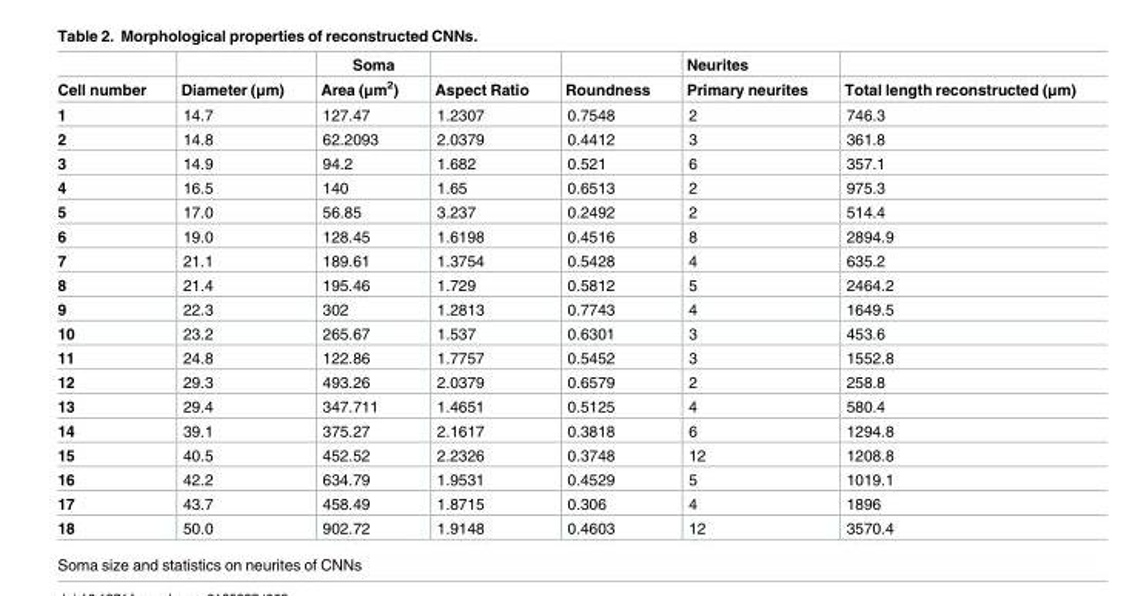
<table><thead><tr><td rowspan="2">Cell number</td><td rowspan="2">Diameter (μm)</td><td rowspan="2">Soma Area (μm<sup>2</sup>)</td><td rowspan="2">Aspect Ratio</td><td rowspan="2">Roundness</td><td rowspan="2">Neurites Primary neurites</td><td rowspan="2">Total length reconstructed (μm)</td></tr><tr></tr></thead><tbody><tr><td>1</td><td>14.7</td><td>127.47</td><td>1.2307</td><td>0.7548</td><td>2</td><td>746.3</td></tr><tr><td>2</td><td>14.8</td><td>62.2093</td><td>2.0379</td><td>0.4412</td><td>3</td><td>361.8</td></tr><tr><td>3</td><td>14.9</td><td>94.2</td><td>1.682</td><td>0.521</td><td>6</td><td>357.1</td></tr><tr><td>4</td><td>16.5</td><td>140</td><td>1.65</td><td>0.6513</td><td>2</td><td>975.3</td></tr><tr><td>5</td><td>17.0</td><td>56.85</td><td>3.237</td><td>0.2492</td><td>2</td><td>514.4</td></tr><tr><td>6</td><td>19.0</td><td>128.45</td><td>1.6198</td><td>0.4516</td><td>8</td><td>2894.9</td></tr><tr><td>7</td><td>21.1</td><td>189.61</td><td>1.3754</td><td>0.5428</td><td>4</td><td>635.2</td></tr><tr><td>8</td><td>21.4</td><td>195.46</td><td>1.729</td><td>0.5812</td><td>5</td><td>2464.2</td></tr><tr><td>9</td><td>22.3</td><td>302</td><td>1.2813</td><td>0.7743</td><td>4</td><td>1649.5</td></tr><tr><td>10</td><td>23.2</td><td>265.67</td><td>1.537</td><td>0.6301</td><td>3</td><td>453.6</td></tr><tr><td>11</td><td>24.8</td><td>122.86</td><td>1.7757</td><td>0.5452</td><td>3</td><td>1552.8</td></tr><tr><td>12</td><td>29.3</td><td>493.26</td><td>2.0379</td><td>0.6579</td><td>2</td><td>258.8</td></tr><tr><td>13</td><td>29.4</td><td>347.711</td><td>1.4651</td><td>0.5125</td><td>4</td><td>580.4</td></tr><tr><td>14</td><td>39.1</td><td>375.27</td><td>2.1617</td><td>0.3818</td><td>6</td><td>1294.8</td></tr><tr><td>15</td><td>40.5</td><td>452.52</td><td>2.2326</td><td>0.3748</td><td>12</td><td>1208.8</td></tr><tr><td>16</td><td>42.2</td><td>634.79</td><td>1.9531</td><td>0.4529</td><td>5</td><td>1019.1</td></tr><tr><td>17</td><td>43.7</td><td>458.49</td><td>1.8715</td><td>0.306</td><td>4</td><td>1896</td></tr><tr><td>18</td><td>50.0</td><td>902.72</td><td>1.9148</td><td>0.4603</td><td>12</td><td>3570.4</td></tr></tbody></table>